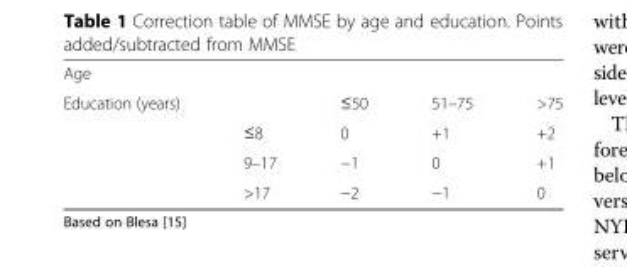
<table><tbody><tr><td colspan="5">Age</td></tr><tr><td rowspan="4">Education (years)</td><td></td><td>≤50</td><td>51–75</td><td>&gt;75</td></tr><tr><td>≤8</td><td>0</td><td>+1</td><td>+2</td></tr><tr><td>9–17</td><td>−1</td><td>0</td><td>+1</td></tr><tr><td>&gt;17</td><td>−2</td><td>−1</td><td>0</td></tr></tbody></table>